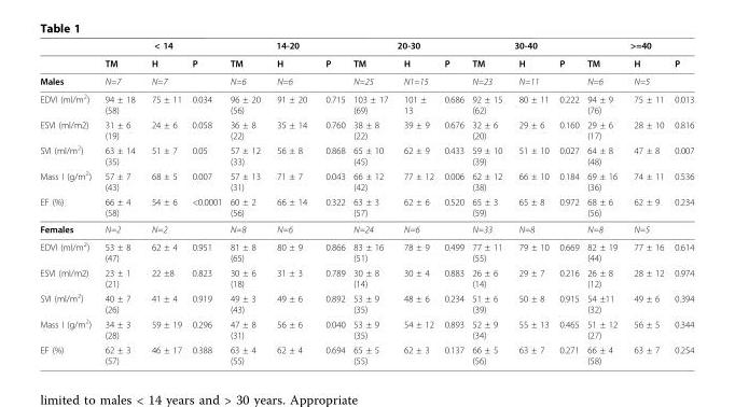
<table><thead><tr><td rowspan="2"></td><td colspan="3">&lt; 14</td><td colspan="3">14-20</td><td colspan="3">20-30</td><td colspan="3">30-40</td><td colspan="3">&gt;=40</td></tr><tr><td>TM</td><td>H</td><td>P</td><td>TM</td><td>H</td><td>P</td><td>TM</td><td>H</td><td>P</td><td>TM</td><td>H</td><td>P</td><td>TM</td><td>H</td><td>P</td></tr></thead><tbody><tr><td>Males</td><td>N=7</td><td>N=7</td><td></td><td>N=6</td><td>N=6</td><td></td><td>N=25</td><td>N1=15</td><td></td><td>N=23</td><td>N=11</td><td></td><td>N=6</td><td>N=5</td><td></td></tr><tr><td>EDVI (ml/m<sup>2</sup>)</td><td>94 ± 18 (58)</td><td>75 ± 11</td><td>0.034</td><td>96 ± 20 (56)</td><td>91 ± 20</td><td>0.715</td><td>103 ± 17 (69)</td><td>101 ± 13</td><td>0.686</td><td>92 ± 15 (62)</td><td>80 ± 11</td><td>0.222</td><td>94 ± 9 (76)</td><td>75 ± 11</td><td>0.013</td></tr><tr><td>ESVI (ml/m2)</td><td>31 ± 6 (19)</td><td>24 ± 6</td><td>0.058</td><td>36 ± 8 (22)</td><td>35 ± 14</td><td>0.760</td><td>38 ± 8 (22)</td><td>39 ± 9</td><td>0.676</td><td>32 ± 6 (20)</td><td>29 ± 6</td><td>0.160</td><td>29 ± 6 (17)</td><td>28 ± 10</td><td>0.816</td></tr><tr><td>SVI (ml/m<sup>2</sup>)</td><td>63 ± 14 (35)</td><td>51 ± 7</td><td>0.05</td><td>57 ± 12 (33)</td><td>56 ± 8</td><td>0.868</td><td>65 ± 10 (45)</td><td>62 ± 9</td><td>0.433</td><td>59 ± 10 (39)</td><td>51 ± 10</td><td>0.027</td><td>64 ± 8 (48)</td><td>47 ± 8</td><td>0.007</td></tr><tr><td>Mass I (g/m<sup>2</sup>)</td><td>57 ± 7 (43)</td><td>68 ± 5</td><td>0.007</td><td>57 ± 13 (31)</td><td>71 ± 7</td><td>0.043</td><td>66 ± 12 (42)</td><td>77 ± 12</td><td>0.006</td><td>62 ± 12 (38)</td><td>66 ± 10</td><td>0.184</td><td>69 ± 16 (36)</td><td>74 ± 11</td><td>0.536</td></tr><tr><td>EF (%)</td><td>66 ± 4 (58)</td><td>54 ± 6</td><td>&lt;0.0001</td><td>60 ± 2 (56)</td><td>66 ± 14</td><td>0.322</td><td>63 ± 3 (57)</td><td>62 ± 6</td><td>0.520</td><td>65 ± 3 (59)</td><td>65 ± 8</td><td>0.972</td><td>68 ± 6 (56)</td><td>62 ± 9</td><td>0.234</td></tr><tr><td>Females</td><td>N=2</td><td>N=2</td><td></td><td>N=8</td><td>N=6</td><td></td><td>N=24</td><td>N=6</td><td></td><td>N=33</td><td>N=8</td><td></td><td>N=8</td><td>N=5</td><td></td></tr><tr><td>EDVI (ml/m<sup>2</sup>)</td><td>53 ± 8 (47)</td><td>62 ± 4</td><td>0.951</td><td>81 ± 8 (65)</td><td>80 ± 9</td><td>0.866</td><td>83 ± 16 (51)</td><td>78 ± 9</td><td>0.499</td><td>77 ± 11 (55)</td><td>79 ± 10</td><td>0.669</td><td>82 ± 19 (44)</td><td>77 ± 16</td><td>0.614</td></tr><tr><td>ESVI (ml/m2)</td><td>23 ± 1 (21)</td><td>22 ±8</td><td>0.823</td><td>30 ± 6 (18)</td><td>31 ± 3</td><td>0.789</td><td>30 ± 8 (14)</td><td>30 ± 4</td><td>0.883</td><td>26 ± 6 (14)</td><td>29 ± 7</td><td>0.216</td><td>26 ± 8 (12)</td><td>28 ± 12</td><td>0.974</td></tr><tr><td>SVI (ml/m<sup>2</sup>)</td><td>40 ± 7 (26)</td><td>41 ± 4</td><td>0.919</td><td>49 ± 3 (43)</td><td>49 ± 6</td><td>0.892</td><td>53 ± 9 (35)</td><td>48 ± 6</td><td>0.234</td><td>51 ± 6 (39)</td><td>50 ± 8</td><td>0.915</td><td>54 ±11 (32)</td><td>49 ± 6</td><td>0.394</td></tr><tr><td>Mass I (g/m<sup>2</sup>)</td><td>34 ± 3 (28)</td><td>59 ± 19</td><td>0.296</td><td>47 ± 8 (31)</td><td>56 ± 6</td><td>0.040</td><td>53 ± 9 (35)</td><td>54 ± 12</td><td>0.893</td><td>52 ± 9 (34)</td><td>55 ± 13</td><td>0.465</td><td>51 ± 12 (27)</td><td>56 ± 5</td><td>0.344</td></tr><tr><td>EF (%)</td><td>62 ± 3 (57)</td><td>46 ± 17</td><td>0.388</td><td>63 ± 4 (55)</td><td>62 ± 4</td><td>0.694</td><td>65 ± 5 (55)</td><td>62 ± 3</td><td>0.137</td><td>66 ± 5 (56)</td><td>63 ± 7</td><td>0.271</td><td>66 ± 4 (58)</td><td>63 ± 7</td><td>0.254</td></tr></tbody></table>